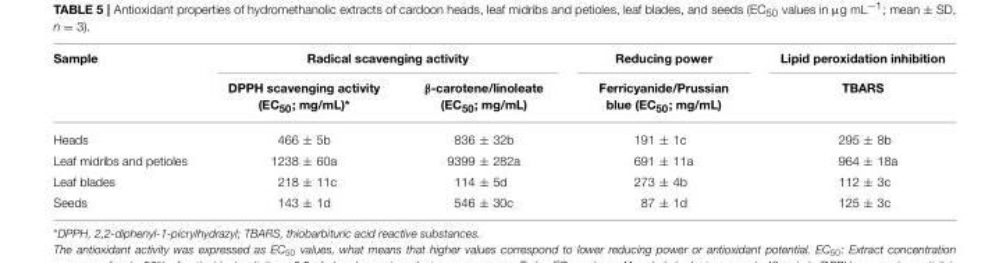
<table><thead><tr><td rowspan="2">Sample</td><td colspan="2">Radical scavenging activity</td><td rowspan="2">Reducing power Ferricyanide/Prussian blue (EC<sub>50</sub>; mg/mL)</td><td rowspan="2">Lipid peroxidation inhibition TBARS</td></tr><tr><td>DPPH scavenging activity (EC<sub>50</sub>; mg/mL)*</td><td>β-carotene/linoleate (EC<sub>50</sub>; mg/mL)</td></tr></thead><tbody><tr><td>Heads</td><td>466 ± 5b</td><td>836 ± 32b</td><td>191 ± 1c</td><td>295 ± 8b</td></tr><tr><td>Leaf midribs and petioles</td><td>1238 ± 60a</td><td>9399 ± 282a</td><td>691 ± 11a</td><td>964 ± 18a</td></tr><tr><td>Leaf blades</td><td>218 ± 11c</td><td>114 ± 5d</td><td>273 ± 4b</td><td>112 ± 3c</td></tr><tr><td>Seeds</td><td>143 ± 1d</td><td>546 ± 30c</td><td>87 ± 1d</td><td>125 ± 3c</td></tr></tbody></table>